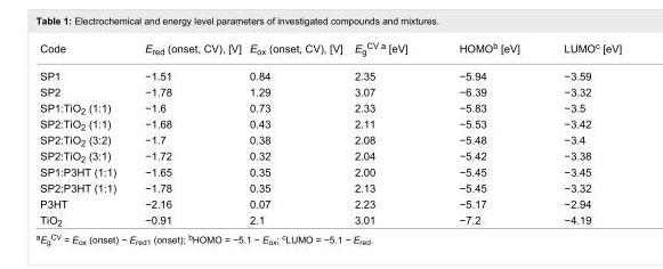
<table><tbody><tr><td>Code</td><td>E<sub>red</sub> (onset, CV), [V]</td><td>E<sub>ox</sub> (onset, CV), [V]</td><td>E<sub>g</sub><sup>CV a</sup> [eV]</td><td>HOMO<sup>b</sup> [eV]</td><td>LUMO<sup>c</sup> [eV]</td></tr><tr><td>SP1</td><td>−1.51</td><td>0.84</td><td>2.35</td><td>−5.94</td><td>−3.59</td></tr><tr><td>SP2</td><td>−1.78</td><td>1.29</td><td>3.07</td><td>−6.39</td><td>−3.32</td></tr><tr><td>SP1:TiO<sub>2</sub> (1:1)</td><td>−1.6</td><td>0.73</td><td>2.33</td><td>−5.83</td><td>−3.5</td></tr><tr><td>SP2:TiO<sub>2</sub> (1:1)</td><td>−1.68</td><td>0.43</td><td>2.11</td><td>−5.53</td><td>−3.42</td></tr><tr><td>SP2:TiO<sub>2</sub> (3:2)</td><td>−1.7</td><td>0.38</td><td>2.08</td><td>−5.48</td><td>−3.4</td></tr><tr><td>SP2:TiO<sub>2</sub> (3:1)</td><td>−1.72</td><td>0.32</td><td>2.04</td><td>−5.42</td><td>−3.38</td></tr><tr><td>SP1:P3HT (1:1)</td><td>−1.65</td><td>0.35</td><td>2.00</td><td>−5.45</td><td>−3.45</td></tr><tr><td>SP2:P3HT (1:1)</td><td>−1.78</td><td>0.35</td><td>2.13</td><td>−5.45</td><td>−3.32</td></tr><tr><td>P3HT</td><td>−2.16</td><td>0.07</td><td>2.23</td><td>−5.17</td><td>−2.94</td></tr><tr><td>TiO<sub>2</sub></td><td>−0.91</td><td>2.1</td><td>3.01</td><td>−7.2</td><td>−4.19</td></tr></tbody></table>